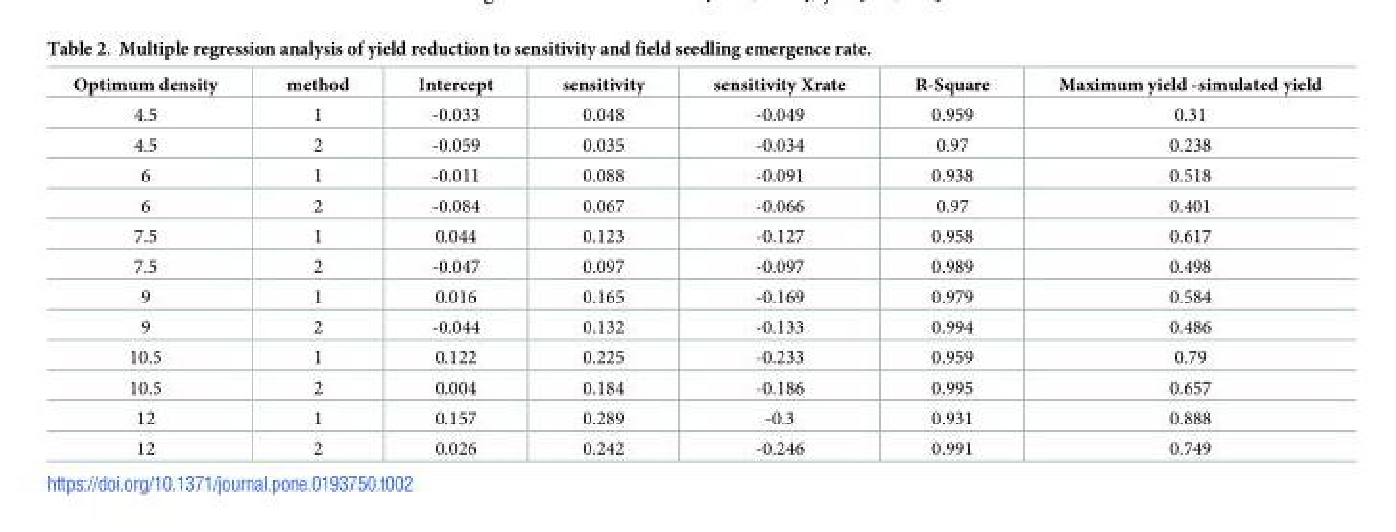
<table><thead><tr><td>Optimum density</td><td>method</td><td>Intercept</td><td>sensitivity</td><td>sensitivity Χrate</td><td>R-Square</td><td>Maximum yield -simulated yield</td></tr></thead><tbody><tr><td>4.5</td><td>1</td><td>-0.033</td><td>0.048</td><td>-0.049</td><td>0.959</td><td>0.31</td></tr><tr><td>4.5</td><td>2</td><td>-0.059</td><td>0.035</td><td>-0.034</td><td>0.97</td><td>0.238</td></tr><tr><td>6</td><td>1</td><td>-0.011</td><td>0.088</td><td>-0.091</td><td>0.938</td><td>0.518</td></tr><tr><td>6</td><td>2</td><td>-0.084</td><td>0.067</td><td>-0.066</td><td>0.97</td><td>0.401</td></tr><tr><td>7.5</td><td>1</td><td>0.044</td><td>0.123</td><td>-0.127</td><td>0.958</td><td>0.617</td></tr><tr><td>7.5</td><td>2</td><td>-0.047</td><td>0.097</td><td>-0.097</td><td>0.989</td><td>0.498</td></tr><tr><td>9</td><td>1</td><td>0.016</td><td>0.165</td><td>-0.169</td><td>0.979</td><td>0.584</td></tr><tr><td>9</td><td>2</td><td>-0.044</td><td>0.132</td><td>-0.133</td><td>0.994</td><td>0.486</td></tr><tr><td>10.5</td><td>1</td><td>0.122</td><td>0.225</td><td>-0.233</td><td>0.959</td><td>0.79</td></tr><tr><td>10.5</td><td>2</td><td>0.004</td><td>0.184</td><td>-0.186</td><td>0.995</td><td>0.657</td></tr><tr><td>12</td><td>1</td><td>0.157</td><td>0.289</td><td>-0.3</td><td>0.931</td><td>0.888</td></tr><tr><td>12</td><td>2</td><td>0.026</td><td>0.242</td><td>-0.246</td><td>0.991</td><td>0.749</td></tr></tbody></table>